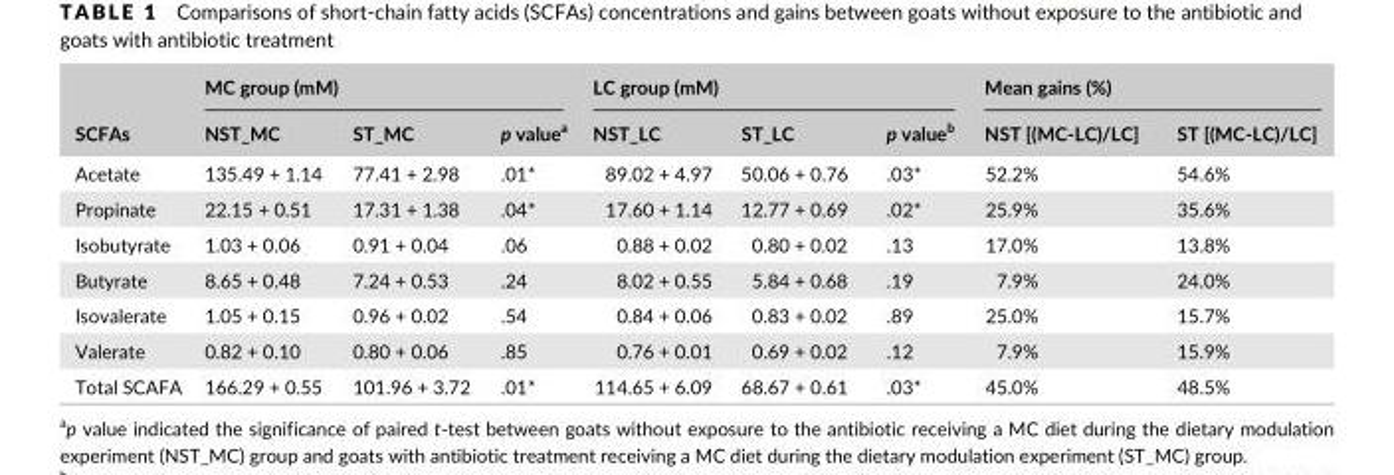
<table><thead><tr><td rowspan="2">SCFAs</td><td colspan="3">MC group (mM)</td><td colspan="3">LC group (mM)</td><td colspan="2">Mean gains (%)</td></tr><tr><td>NST_MC</td><td>ST_MC</td><td>p value<sup>a</sup></td><td>NST_LC</td><td>ST_LC</td><td>p value<sup>b</sup></td><td>NST [(MC- LC)/LC]</td><td>ST [(MC- LC)/LC]</td></tr></thead><tbody><tr><td>Acetate</td><td>135.49 + 1.14</td><td>77.41 + 2.98</td><td>.01*</td><td>89.02 + 4.97</td><td>50.06 + 0.76</td><td>.03*</td><td>52.2%</td><td>54.6%</td></tr><tr><td>Propinate</td><td>22.15 + 0.51</td><td>17.31 + 1.38</td><td>.04*</td><td>17.60 + 1.14</td><td>12.77 + 0.69</td><td>.02*</td><td>25.9%</td><td>35.6%</td></tr><tr><td>Isobutyrate</td><td>1.03 + 0.06</td><td>0.91 + 0.04</td><td>.06</td><td>0.88 + 0.02</td><td>0.80 + 0.02</td><td>.13</td><td>17.0%</td><td>13.8%</td></tr><tr><td>Butyrate</td><td>8.65 + 0.48</td><td>7.24 + 0.53</td><td>.24</td><td>8.02 + 0.55</td><td>5.84 + 0.68</td><td>.19</td><td>7.9%</td><td>24.0%</td></tr><tr><td>Isovalerate</td><td>1.05 + 0.15</td><td>0.96 + 0.02</td><td>.54</td><td>0.84 + 0.06</td><td>0.83 + 0.02</td><td>.89</td><td>25.0%</td><td>15.7%</td></tr><tr><td>Valerate</td><td>0.82 + 0.10</td><td>0.80 + 0.06</td><td>.85</td><td>0.76 + 0.01</td><td>0.69 + 0.02</td><td>.12</td><td>7.9%</td><td>15.9%</td></tr><tr><td>Total SCAFA</td><td>166.29 + 0.55</td><td>101.96 + 3.72</td><td>.01*</td><td>114.65 + 6.09</td><td>68.67 + 0.61</td><td>.03*</td><td>45.0%</td><td>48.5%</td></tr></tbody></table>